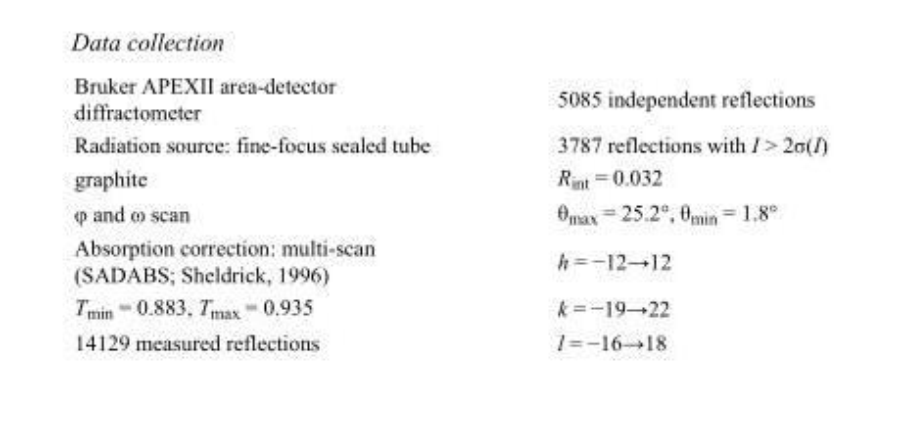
<table><tbody><tr><td>Bruker APEXII area-detector diffractometer</td><td>5085 independent reflections</td></tr><tr><td>Radiation source: fine-focus sealed tube</td><td>3787 reflections with I &gt; 2σ(I)</td></tr><tr><td>graphite</td><td>R<sub>int</sub> = 0.032</td></tr><tr><td>φ and ω scan</td><td>θ<sub>max</sub> = 25.2°, θ<sub>min</sub> = 1.8°</td></tr><tr><td>Absorption correction: multi-scan (SADABS; Sheldrick, 1996)</td><td>h = −12→12</td></tr><tr><td>T<sub>min</sub> = 0.883, T<sub>max</sub> = 0.935</td><td>k = −19→22</td></tr><tr><td>14129 measured reflections</td><td>l = −16→18</td></tr></tbody></table>